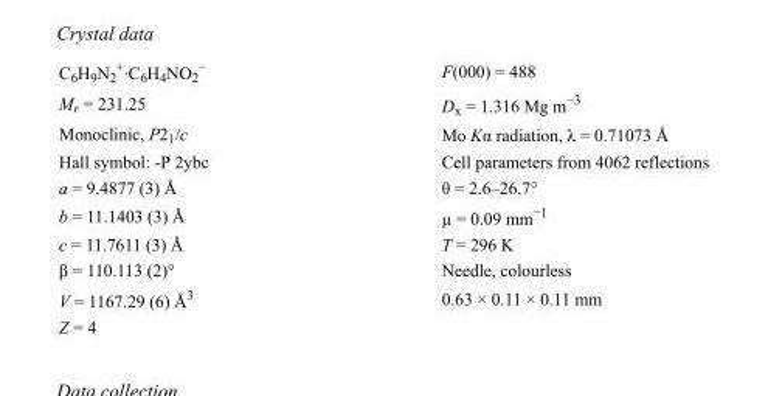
<table><tbody><tr><td>C<sub>6</sub>H<sub>9</sub>N<sub>2</sub> <sup>+</sup>·C<sub>6</sub>H<sub>4</sub>NO<sub>2</sub> <sup>−</sup></td><td>F(000) = 488</td></tr><tr><td>M<sub>r</sub> = 231.25</td><td>D<sub>x</sub> = 1.316 Mg m<sup>−3</sup></td></tr><tr><td>Monoclinic, P2<sub>1</sub>/c</td><td>Mo Kα radiation, λ = 0.71073 Å</td></tr><tr><td>Hall symbol: -P 2ybc</td><td>Cell parameters from 4062 reflections</td></tr><tr><td>a = 9.4877 (3) Å</td><td>θ = 2.6–26.7°</td></tr><tr><td>b = 11.1403 (3) Å</td><td>µ = 0.09 mm<sup>−1</sup></td></tr><tr><td>c = 11.7611 (3) Å</td><td>T = 296 K</td></tr><tr><td>β = 110.113 (2)°</td><td>Needle, colourless</td></tr><tr><td>V = 1167.29 (6) Å<sup>3</sup></td><td>0.63 × 0.11 × 0.11 mm</td></tr><tr><td>Z = 4</td><td></td></tr></tbody></table>